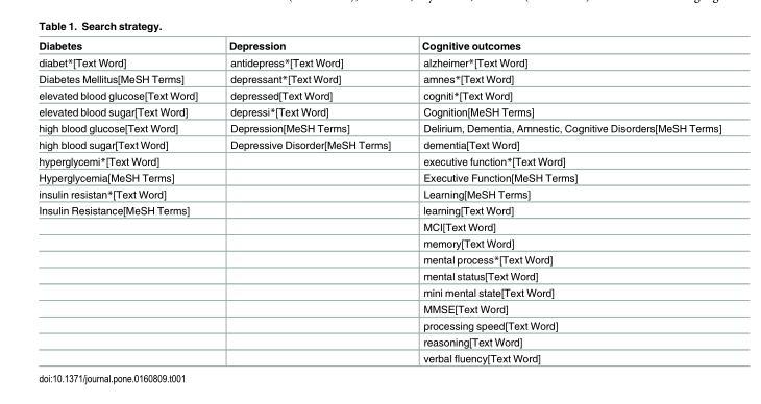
<table><thead><tr><td>Diabetes</td><td>Depression</td><td>Cognitive outcomes</td></tr></thead><tbody><tr><td>diabet*[Text Word]</td><td>antidepress*[Text Word]</td><td>alzheimer*[Text Word]</td></tr><tr><td>Diabetes Mellitus[MeSH Terms]</td><td>depressant*[Text Word]</td><td>amnes*[Text Word]</td></tr><tr><td>elevated blood glucose[Text Word]</td><td>depressed[Text Word]</td><td>cogniti*[Text Word]</td></tr><tr><td>elevated blood sugar[Text Word]</td><td>depressi*[Text Word]</td><td>Cognition[MeSH Terms]</td></tr><tr><td>high blood glucose[Text Word]</td><td>Depression[MeSH Terms]</td><td>Delirium, Dementia, Amnestic, Cognitive Disorders[MeSH Terms]</td></tr><tr><td>high blood sugar[Text Word]</td><td>Depressive Disorder[MeSH Terms]</td><td>dementia[Text Word]</td></tr><tr><td>hyperglycemi*[Text Word]</td><td></td><td>executive function*[Text Word]</td></tr><tr><td>Hyperglycemia[MeSH Terms]</td><td></td><td>Executive Function[MeSH Terms]</td></tr><tr><td>insulin resistan*[Text Word]</td><td></td><td>Learning[MeSH Terms]</td></tr><tr><td rowspan="10">Insulin Resistance[MeSH Terms]</td><td></td><td>learning[Text Word]</td></tr><tr><td></td><td>MCI[Text Word]</td></tr><tr><td></td><td>memory[Text Word]</td></tr><tr><td></td><td>mental process*[Text Word]</td></tr><tr><td></td><td>mental status[Text Word]</td></tr><tr><td></td><td>mini mental state[Text Word]</td></tr><tr><td></td><td>MMSE[Text Word]</td></tr><tr><td></td><td>processing speed[Text Word]</td></tr><tr><td></td><td>reasoning[Text Word]</td></tr><tr><td></td><td>verbal fluency[Text Word]</td></tr></tbody></table>